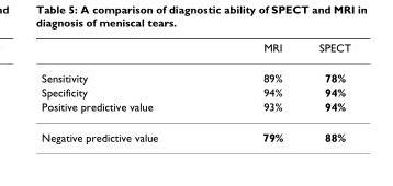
<table><thead><tr><td></td><td>MRI</td><td>SPECT</td></tr></thead><tbody><tr><td>Sensitivity</td><td>89%</td><td>78%</td></tr><tr><td>Specificity</td><td>94%</td><td>94%</td></tr><tr><td>Positive predictive value</td><td>93%</td><td>94%</td></tr><tr><td>Negative predictive value</td><td>79%</td><td>88%</td></tr></tbody></table>